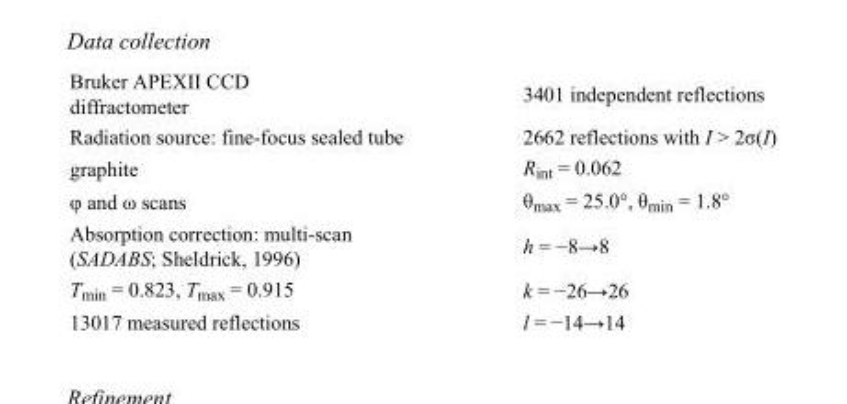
<table><tbody><tr><td>Bruker APEXII CCD diffractometer</td><td>3401 independent reflections</td></tr><tr><td>Radiation source: fine-focus sealed tube</td><td>2662 reflections with I &gt; 2σ(I)</td></tr><tr><td>graphite</td><td>R<sub>int</sub> = 0.062</td></tr><tr><td>φ and ω scans</td><td>θ<sub>max</sub> = 25.0°, θ<sub>min</sub> = 1.8°</td></tr><tr><td>Absorption correction: multi-scan (SADABS; Sheldrick, 1996)</td><td>h = −8→8</td></tr><tr><td>T<sub>min</sub> = 0.823, T<sub>max</sub> = 0.915</td><td>k = −26→26</td></tr><tr><td>13017 measured reflections</td><td>l = −14→14</td></tr></tbody></table>